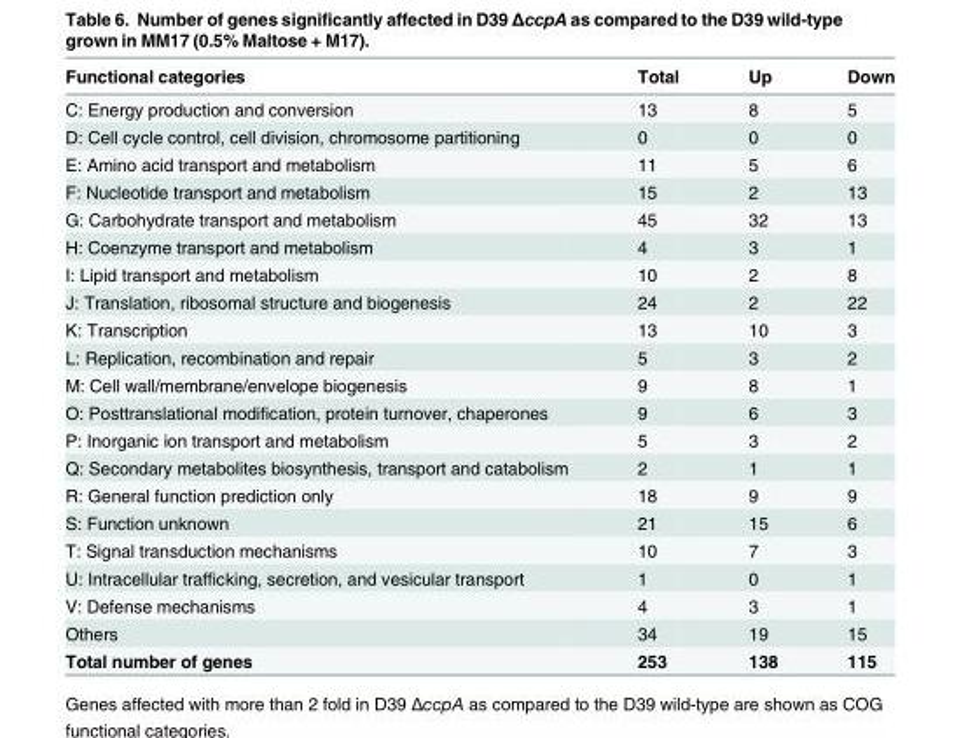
<table><thead><tr><td>Functional categories</td><td>Total</td><td>Up</td><td>Down</td></tr></thead><tbody><tr><td>C: Energy production and conversion</td><td>13</td><td>8</td><td>5</td></tr><tr><td>D: Cell cycle control, cell division, chromosome partitioning</td><td>0</td><td>0</td><td>0</td></tr><tr><td>E: Amino acid transport and metabolism</td><td>11</td><td>5</td><td>6</td></tr><tr><td>F: Nucleotide transport and metabolism</td><td>15</td><td>2</td><td>13</td></tr><tr><td>G: Carbohydrate transport and metabolism</td><td>45</td><td>32</td><td>13</td></tr><tr><td>H: Coenzyme transport and metabolism</td><td>4</td><td>3</td><td>1</td></tr><tr><td>I: Lipid transport and metabolism</td><td>10</td><td>2</td><td>8</td></tr><tr><td>J: Translation, ribosomal structure and biogenesis</td><td>24</td><td>2</td><td>22</td></tr><tr><td>K: Transcription</td><td>13</td><td>10</td><td>3</td></tr><tr><td>L: Replication, recombination and repair</td><td>5</td><td>3</td><td>2</td></tr><tr><td>M: Cell wall/membrane/envelope biogenesis</td><td>9</td><td>8</td><td>1</td></tr><tr><td>O: Posttranslational modification, protein turnover, chaperones</td><td>9</td><td>6</td><td>3</td></tr><tr><td>P: Inorganic ion transport and metabolism</td><td>5</td><td>3</td><td>2</td></tr><tr><td>Q: Secondary metabolites biosynthesis, transport and catabolism</td><td>2</td><td>1</td><td>1</td></tr><tr><td>R: General function prediction only</td><td>18</td><td>9</td><td>9</td></tr><tr><td>S: Function unknown</td><td>21</td><td>15</td><td>6</td></tr><tr><td>T: Signal transduction mechanisms</td><td>10</td><td>7</td><td>3</td></tr><tr><td>U: Intracellular trafficking, secretion, and vesicular transport</td><td>1</td><td>0</td><td>1</td></tr><tr><td>V: Defense mechanisms</td><td>4</td><td>3</td><td>1</td></tr><tr><td>Others</td><td>34</td><td>19</td><td>15</td></tr><tr><td>Total number of genes</td><td>253</td><td>138</td><td>115</td></tr></tbody></table>